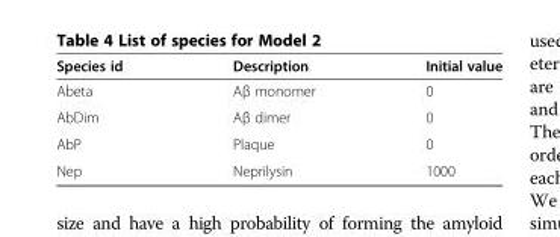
<table><thead><tr><td>Species id</td><td>Description</td><td>Initial value</td></tr></thead><tbody><tr><td>Abeta</td><td>Aβ monomer</td><td>0</td></tr><tr><td>AbDim</td><td>Aβ dimer</td><td>0</td></tr><tr><td>AbP</td><td>Plaque</td><td>0</td></tr><tr><td>Nep</td><td>Neprilysin</td><td>1000</td></tr></tbody></table>